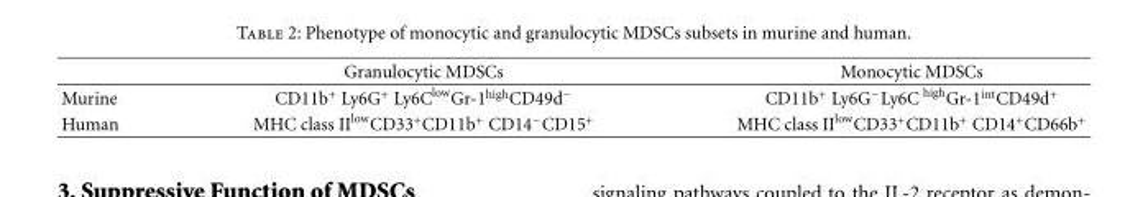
<table><thead><tr><td></td><td>Granulocytic MDSCs</td><td>Monocytic MDSCs</td></tr></thead><tbody><tr><td>Murine</td><td>CD11b<sup>+</sup> Ly6G<sup>+</sup> Ly6C<sup>low</sup>Gr-1<sup>high</sup>CD49d<sup>−</sup></td><td>CD11b<sup>+</sup> Ly6G<sup>−</sup>Ly6C <sup>high</sup>Gr-1<sup>int</sup>CD49d<sup>+</sup></td></tr><tr><td>Human</td><td>MHC class II<sup>low</sup>CD33<sup>+</sup>CD11b<sup>+</sup> CD14<sup>−</sup>CD15<sup>+</sup></td><td>MHC class II<sup>low</sup>CD33<sup>+</sup>CD11b<sup>+</sup> CD14<sup>+</sup>CD66b<sup>+</sup></td></tr></tbody></table>